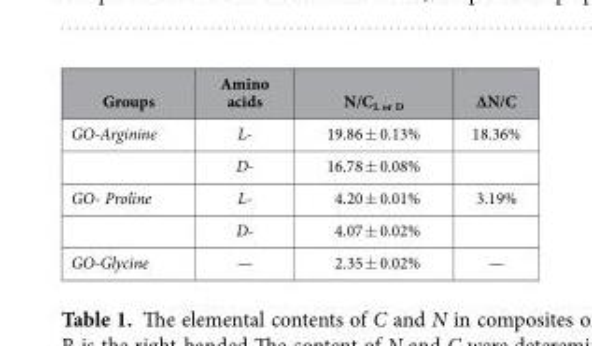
<table><thead><tr><td>Groups</td><td>Amino acids</td><td>N/C<sub>L or D</sub></td><td>∆N/C</td></tr></thead><tbody><tr><td rowspan="2">GO-Arginine</td><td>L-</td><td>19.86 ± 0.13%</td><td>18.36%</td></tr><tr><td>D-</td><td>16.78 ± 0.08%</td><td></td></tr><tr><td rowspan="2">GO- Proline</td><td>L-</td><td>4.20 ± 0.01%</td><td>3.19%</td></tr><tr><td>D-</td><td>4.07 ± 0.02%</td><td></td></tr><tr><td>GO-Glycine</td><td>—</td><td>2.35 ± 0.02%</td><td>—</td></tr></tbody></table>